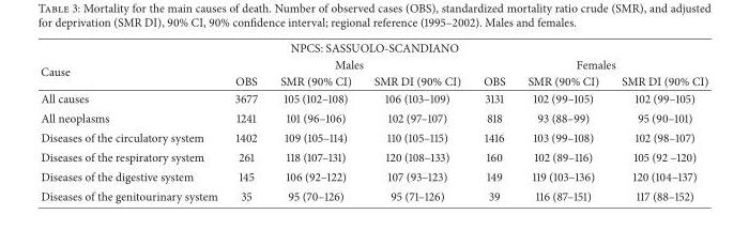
<table><thead><tr><td colspan="7">NPCS: SASSUOLO-SCANDIANO</td></tr><tr><td rowspan="2">Cause</td><td colspan="3">Males</td><td colspan="3">Females</td></tr><tr><td>OBS</td><td>SMR (90% CI)</td><td>SMR DI (90% CI)</td><td>OBS</td><td>SMR (90% CI)</td><td>SMR DI (90% CI)</td></tr></thead><tbody><tr><td>All causes</td><td>3677</td><td>105 (102–108)</td><td>106 (103–109)</td><td>3131</td><td>102 (99–105)</td><td>102 (99–105)</td></tr><tr><td>All neoplasms</td><td>1241</td><td>101 (96–106)</td><td>102 (97–107)</td><td>818</td><td>93 (88–99)</td><td>95 (90–101)</td></tr><tr><td>Diseases of the circulatory system</td><td>1402</td><td>109 (105–114)</td><td>110 (105–115)</td><td>1416</td><td>103 (99–108)</td><td>102 (98–107)</td></tr><tr><td>Diseases of the respiratory system</td><td>261</td><td>118 (107–131)</td><td>120 (108–133)</td><td>160</td><td>102 (89–116)</td><td>105 (92 –120)</td></tr><tr><td>Diseases of the digestive system</td><td>145</td><td>106 (92–122)</td><td>107 (93–123)</td><td>149</td><td>119 (103–136)</td><td>120 (104–137)</td></tr><tr><td>Diseases of the genitourinary system</td><td>35</td><td>95 (70–126)</td><td>95 (71–126)</td><td>39</td><td>116 (87–151)</td><td>117 (88–152)</td></tr></tbody></table>